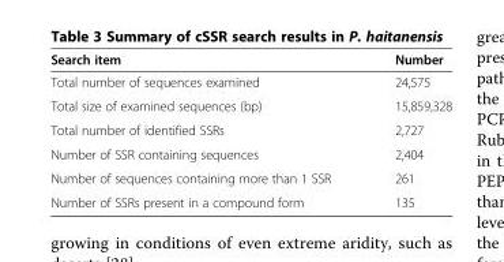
<table><thead><tr><td>Search item</td><td>Number</td></tr></thead><tbody><tr><td>Total number of sequences examined</td><td>24,575</td></tr><tr><td>Total size of examined sequences (bp)</td><td>15,859,328</td></tr><tr><td>Total number of identified SSRs</td><td>2,727</td></tr><tr><td>Number of SSR containing sequences</td><td>2,404</td></tr><tr><td>Number of sequences containing more than 1 SSR</td><td>261</td></tr><tr><td>Number of SSRs present in a compound form</td><td>135</td></tr></tbody></table>